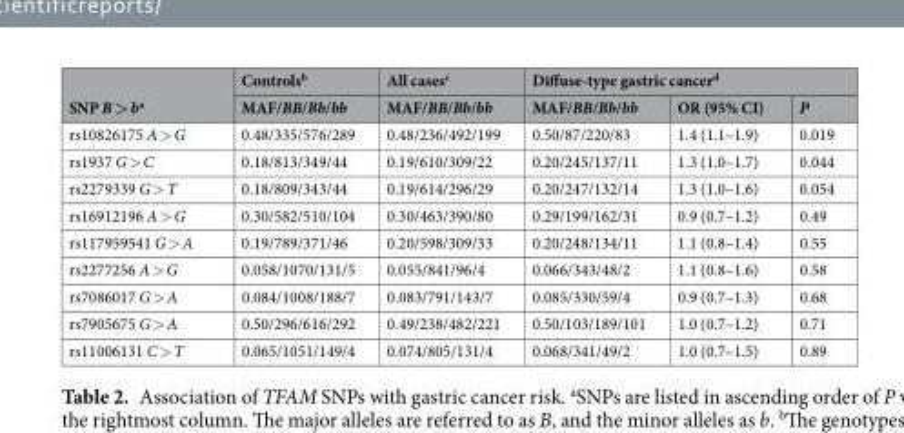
<table><thead><tr><td rowspan="2">SNP B &gt; b<sup>a</sup></td><td rowspan="2">Controls<sup>b</sup> MAF/BB/Bb/bb</td><td rowspan="2">All cases<sup>c</sup> MAF/BB/Bb/bb</td><td colspan="3">Diffuse-type gastric cancer<sup>d</sup></td></tr><tr><td>MAF/BB/Bb/bb</td><td>OR (95% CI)</td><td>P</td></tr></thead><tbody><tr><td>rs10826175 A &gt; G</td><td>0.48/335/576/289</td><td>0.48/236/492/199</td><td>0.50/87/220/83</td><td>1.4 (1.1–1.9)</td><td>0.019</td></tr><tr><td>rs1937 G &gt; C</td><td>0.18/813/349/44</td><td>0.19/610/309/22</td><td>0.20/245/137/11</td><td>1.3 (1.0–1.7)</td><td>0.044</td></tr><tr><td>rs2279339 G &gt; T</td><td>0.18/809/343/44</td><td>0.19/614/296/29</td><td>0.20/247/132/14</td><td>1.3 (1.0–1.6)</td><td>0.054</td></tr><tr><td>rs16912196 A &gt; G</td><td>0.30/582/510/104</td><td>0.30/463/390/80</td><td>0.29/199/162/31</td><td>0.9 (0.7–1.2)</td><td>0.49</td></tr><tr><td>rs117959541 G &gt; A</td><td>0.19/789/371/46</td><td>0.20/598/309/33</td><td>0.20/248/134/11</td><td>1.1 (0.8–1.4)</td><td>0.55</td></tr><tr><td>rs2277256 A &gt; G</td><td>0.058/1070/131/5</td><td>0.055/841/96/4</td><td>0.066/343/48/2</td><td>1.1 (0.8–1.6)</td><td>0.58</td></tr><tr><td>rs7086017 G &gt; A</td><td>0.084/1008/188/7</td><td>0.083/791/143/7</td><td>0.085/330/59/4</td><td>0.9 (0.7–1.3)</td><td>0.68</td></tr><tr><td>rs7905675 G &gt; A</td><td>0.50/296/616/292</td><td>0.49/238/482/221</td><td>0.50/103/189/101</td><td>1.0 (0.7–1.2)</td><td>0.71</td></tr><tr><td>rs11006131 C &gt; T</td><td>0.065/1051/149/4</td><td>0.074/805/131/4</td><td>0.068/341/49/2</td><td>1.0 (0.7–1.5)</td><td>0.89</td></tr></tbody></table>